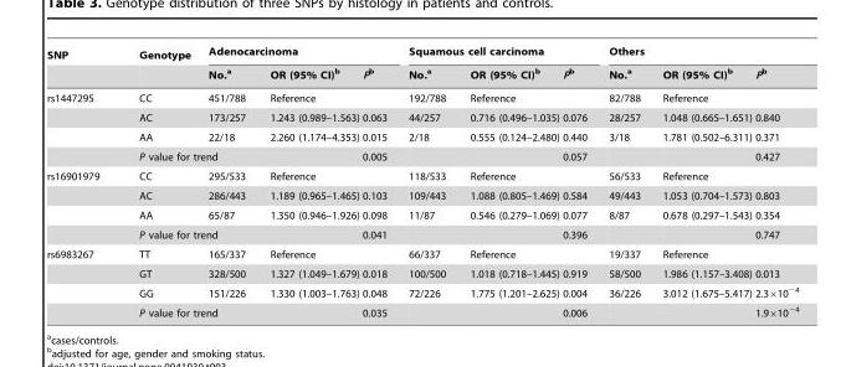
<table><thead><tr><td rowspan="2">SNP</td><td rowspan="2">Genotype</td><td colspan="3">Adenocarcinoma</td><td colspan="3">Squamous cell carcinoma</td><td colspan="3">Others</td></tr><tr><td>No.<sup>a</sup></td><td>OR (95% CI)<sup>b</sup></td><td>Pb</td><td>No.<sup>a</sup></td><td>OR (95% CI)<sup>b</sup></td><td>Pb</td><td>No.<sup>a</sup></td><td>OR (95% CI)<sup>b</sup></td><td>Pb</td></tr></thead><tbody><tr><td rowspan="4">rs1447295</td><td>CC</td><td>451/788</td><td>Reference</td><td></td><td>192/788</td><td>Reference</td><td></td><td>82/788</td><td>Reference</td><td></td></tr><tr><td>AC</td><td>173/257</td><td>1.243 (0.989–1.563)</td><td>0.063</td><td>44/257</td><td>0.716 (0.496–1.035)</td><td>0.076</td><td>28/257</td><td>1.048 (0.665–1.651)</td><td>0.840</td></tr><tr><td>AA</td><td>22/18</td><td>2.260 (1.174–4.353)</td><td>0.015</td><td>2/18</td><td>0.555 (0.124–2.480)</td><td>0.440</td><td>3/18</td><td>1.781 (0.502–6.311)</td><td>0.371</td></tr><tr><td colspan="3">P value for trend</td><td>0.005</td><td></td><td></td><td>0.057</td><td></td><td></td><td>0.427</td></tr><tr><td rowspan="4">rs16901979</td><td>CC</td><td>295/533</td><td>Reference</td><td></td><td>118/533</td><td>Reference</td><td></td><td>56/533</td><td>Reference</td><td></td></tr><tr><td>AC</td><td>286/443</td><td>1.189 (0.965–1.465)</td><td>0.103</td><td>109/443</td><td>1.088 (0.805–1.469)</td><td>0.584</td><td>49/443</td><td>1.053 (0.704–1.573)</td><td>0.803</td></tr><tr><td>AA</td><td>65/87</td><td>1.350 (0.946–1.926)</td><td>0.098</td><td>11/87</td><td>0.546 (0.279–1.069)</td><td>0.077</td><td>8/87</td><td>0.678 (0.297–1.543)</td><td>0.354</td></tr><tr><td colspan="3">P value for trend</td><td>0.041</td><td></td><td></td><td>0.396</td><td></td><td></td><td>0.747</td></tr><tr><td rowspan="4">rs6983267</td><td>TT</td><td>165/337</td><td>Reference</td><td></td><td>66/337</td><td>Reference</td><td></td><td>19/337</td><td>Reference</td><td></td></tr><tr><td>GT</td><td>328/500</td><td>1.327 (1.049–1.679)</td><td>0.018</td><td>100/500</td><td>1.018 (0.718–1.445)</td><td>0.919</td><td>58/500</td><td>1.986 (1.157–3.408)</td><td>0.013</td></tr><tr><td>GG</td><td>151/226</td><td>1.330 (1.003–1.763)</td><td>0.048</td><td>72/226</td><td>1.775 (1.201–2.625)</td><td>0.004</td><td>36/226</td><td>3.012 (1.675–5.417)</td><td>2.3×10<sup>−4</sup></td></tr><tr><td colspan="3">P value for trend</td><td>0.035</td><td></td><td></td><td>0.006</td><td></td><td></td><td>1.9×10<sup>−4</sup></td></tr></tbody></table>